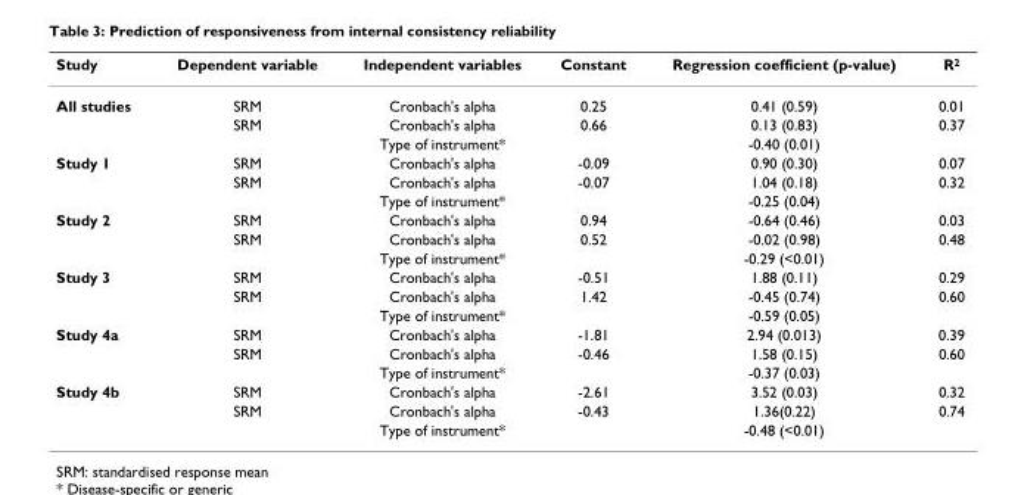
<table><thead><tr><td>Study</td><td>Dependent variable</td><td>Independent variables</td><td>Constant</td><td>Regression coefficient (p-value)</td><td>R<sup>2</sup></td></tr></thead><tbody><tr><td rowspan="3">All studies</td><td>SRM</td><td>Cronbach&#x27;s alpha</td><td>0.25</td><td>0.41 (0.59)</td><td>0.01</td></tr><tr><td>SRM</td><td>Cronbach&#x27;s alpha</td><td>0.66</td><td>0.13 (0.83)</td><td>0.37</td></tr><tr><td></td><td>Type of instrument*</td><td></td><td>-0.40 (0.01)</td><td></td></tr><tr><td rowspan="3">Study 1</td><td>SRM</td><td>Cronbach&#x27;s alpha</td><td>-0.09</td><td>0.90 (0.30)</td><td>0.07</td></tr><tr><td>SRM</td><td>Cronbach&#x27;s alpha</td><td>-0.07</td><td>1.04 (0.18)</td><td>0.32</td></tr><tr><td></td><td>Type of instrument*</td><td></td><td>-0.25 (0.04)</td><td></td></tr><tr><td rowspan="3">Study 2</td><td>SRM</td><td>Cronbach&#x27;s alpha</td><td>0.94</td><td>-0.64 (0.46)</td><td>0.03</td></tr><tr><td>SRM</td><td>Cronbach&#x27;s alpha</td><td>0.52</td><td>-0.02 (0.98)</td><td>0.48</td></tr><tr><td></td><td>Type of instrument*</td><td></td><td>-0.29 (&lt;0.01)</td><td></td></tr><tr><td rowspan="3">Study 3</td><td>SRM</td><td>Cronbach&#x27;s alpha</td><td>-0.51</td><td>1.88 (0.11)</td><td>0.29</td></tr><tr><td>SRM</td><td>Cronbach&#x27;s alpha</td><td>1.42</td><td>-0.45 (0.74)</td><td>0.60</td></tr><tr><td></td><td>Type of instrument*</td><td></td><td>-0.59 (0.05)</td><td></td></tr><tr><td rowspan="3">Study 4a</td><td>SRM</td><td>Cronbach&#x27;s alpha</td><td>-1.81</td><td>2.94 (0.013)</td><td>0.39</td></tr><tr><td>SRM</td><td>Cronbach&#x27;s alpha</td><td>-0.46</td><td>1.58 (0.15)</td><td>0.60</td></tr><tr><td></td><td>Type of instrument*</td><td></td><td>-0.37 (0.03)</td><td></td></tr><tr><td rowspan="3">Study 4b</td><td>SRM</td><td>Cronbach&#x27;s alpha</td><td>-2.61</td><td>3.52 (0.03)</td><td>0.32</td></tr><tr><td>SRM</td><td>Cronbach&#x27;s alpha</td><td>-0.43</td><td>1.36(0.22)</td><td>0.74</td></tr><tr><td></td><td>Type of instrument*</td><td></td><td>-0.48 (&lt;0.01)</td><td></td></tr></tbody></table>